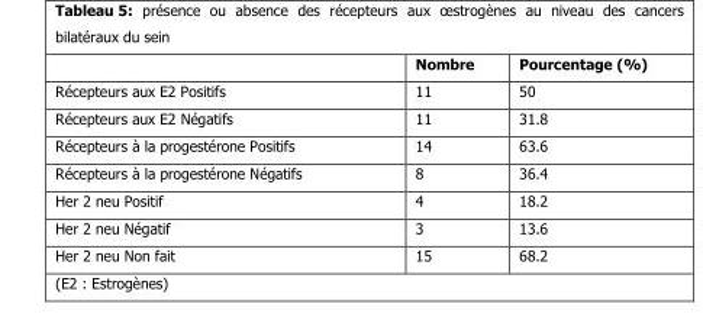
<table><thead><tr><td></td><td>Nombre</td><td>Pourcentage (%)</td></tr></thead><tbody><tr><td>Récepteurs aux E2 Positifs</td><td>11</td><td>50</td></tr><tr><td>Récepteurs aux E2 Négatifs</td><td>11</td><td>31.8</td></tr><tr><td>Récepteurs à la progestérone Positifs</td><td>14</td><td>63.6</td></tr><tr><td>Récepteurs à la progestérone Négatifs</td><td>8</td><td>36.4</td></tr><tr><td>Her 2 neu Positif</td><td>4</td><td>18.2</td></tr><tr><td>Her 2 neu Négatif</td><td>3</td><td>13.6</td></tr><tr><td>Her 2 neu Non fait</td><td>15</td><td>68.2</td></tr></tbody></table>